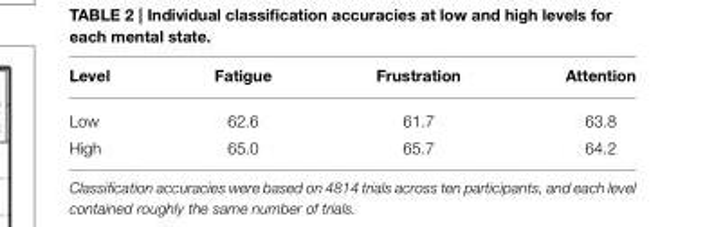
<table><thead><tr><td>Level</td><td>Fatigue</td><td>Frustration</td><td>Attention</td></tr></thead><tbody><tr><td>Low</td><td>62.6</td><td>61.7</td><td>63.8</td></tr><tr><td>High</td><td>65.0</td><td>65.7</td><td>64.2</td></tr></tbody></table>